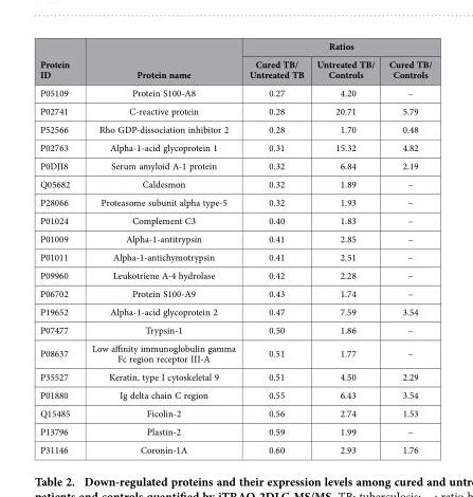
<table><thead><tr><td rowspan="2">Protein ID</td><td rowspan="2">Protein name</td><td colspan="3">Ratios</td></tr><tr><td>Cured TB/ Untreated TB</td><td>Untreated TB/ Controls</td><td>Cured TB/ Controls</td></tr></thead><tbody><tr><td>P05109</td><td>Protein S100-A8</td><td>0.27</td><td>4.20</td><td>–</td></tr><tr><td>P02741</td><td>C-reactive protein</td><td>0.28</td><td>20.71</td><td>5.79</td></tr><tr><td>P52566</td><td>Rho GDP-dissociation inhibitor 2</td><td>0.28</td><td>1.70</td><td>0.48</td></tr><tr><td>P02763</td><td>Alpha-1-acid glycoprotein 1</td><td>0.31</td><td>15.32</td><td>4.82</td></tr><tr><td>P0DJI8</td><td>Serum amyloid A-1 protein</td><td>0.32</td><td>6.84</td><td>2.19</td></tr><tr><td>Q05682</td><td>Caldesmon</td><td>0.32</td><td>1.89</td><td>–</td></tr><tr><td>P28066</td><td>Proteasome subunit alpha type-5</td><td>0.32</td><td>1.93</td><td>–</td></tr><tr><td>P01024</td><td>Complement C3</td><td>0.40</td><td>1.83</td><td>–</td></tr><tr><td>P01009</td><td>Alpha-1-antitrypsin</td><td>0.41</td><td>2.85</td><td>–</td></tr><tr><td>P01011</td><td>Alpha-1-antichymotrypsin</td><td>0.41</td><td>2.51</td><td>–</td></tr><tr><td>P09960</td><td>Leukotriene A-4 hydrolase</td><td>0.42</td><td>2.28</td><td>–</td></tr><tr><td>P06702</td><td>Protein S100-A9</td><td>0.43</td><td>1.74</td><td>–</td></tr><tr><td>P19652</td><td>Alpha-1-acid glycoprotein 2</td><td>0.47</td><td>7.59</td><td>3.54</td></tr><tr><td>P07477</td><td>Trypsin-1</td><td>0.50</td><td>1.86</td><td>–</td></tr><tr><td>P08637</td><td>Low affinity immunoglobulin gamma Fc region receptor III-A</td><td>0.51</td><td>1.77</td><td>–</td></tr><tr><td>P35527</td><td>Keratin, type I cytoskeletal 9</td><td>0.51</td><td>4.50</td><td>2.29</td></tr><tr><td>P01880</td><td>Ig delta chain C region</td><td>0.55</td><td>6.43</td><td>3.54</td></tr><tr><td>Q15485</td><td>Ficolin-2</td><td>0.56</td><td>2.74</td><td>1.53</td></tr><tr><td>P13796</td><td>Plastin-2</td><td>0.59</td><td>1.99</td><td>–</td></tr><tr><td>P31146</td><td>Coronin-1A</td><td>0.60</td><td>2.93</td><td>1.76</td></tr></tbody></table>